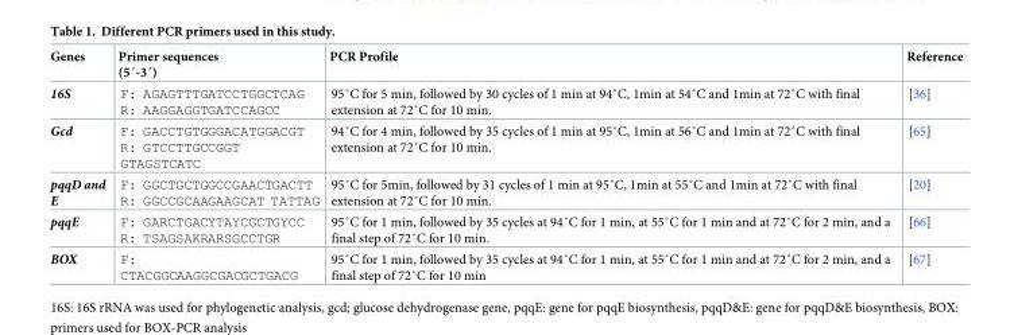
<table><thead><tr><td>Genes</td><td>Primer sequences (5´-3´)</td><td>PCR Profile</td><td>Reference</td></tr></thead><tbody><tr><td>16S</td><td>F: AGAGTTTGATCCTGGCTCAG R: AAGGAGGTGATCCAGCC</td><td>95˚C for 5 min, followed by 30 cycles of 1 min at 94˚C, 1min at 54˚C and 1min at 72˚C with final extension at 72˚C for 10 min.</td><td>[36]</td></tr><tr><td>Gcd</td><td>F: GACCTGTGGGACATGGACGT R: GTCCTTGCCGGT GTAGSTCATC</td><td>94˚C for 4 min, followed by 35 cycles of 1 min at 95˚C, 1min at 56˚C and 1min at 72˚C with final extension at 72˚C for 10 min.</td><td>[65]</td></tr><tr><td>pqqD and E</td><td>F: GGCTGCTGGCCGAACTGACTT R: GGCCGCAAGAAGCAT TATTAG</td><td>95˚C for 5min, followed by 31 cycles of 1 min at 95˚C, 1min at 55˚C and 1min at 72˚C with final extension at 72˚C for 10 min.</td><td>[20]</td></tr><tr><td>pqqE</td><td>F: GARCTGACYTAYCGCTGYCC R: TSAGSAKRARSGCCTGR</td><td>95˚C for 1 min, followed by 35 cycles at 94˚C for 1 min, at 55˚C for 1 min and at 72˚C for 2 min, and a final step of 72˚C for 10 min.</td><td>[66]</td></tr><tr><td>BOX</td><td>F: CTACGGCAAGGCGACGCTGACG</td><td>95˚C for 1 min, followed by 35 cycles at 94˚C for 1 min, at 55˚C for 1 min and at 72˚C for 2 min, and a final step of 72˚C for 10 min</td><td>[67]</td></tr></tbody></table>